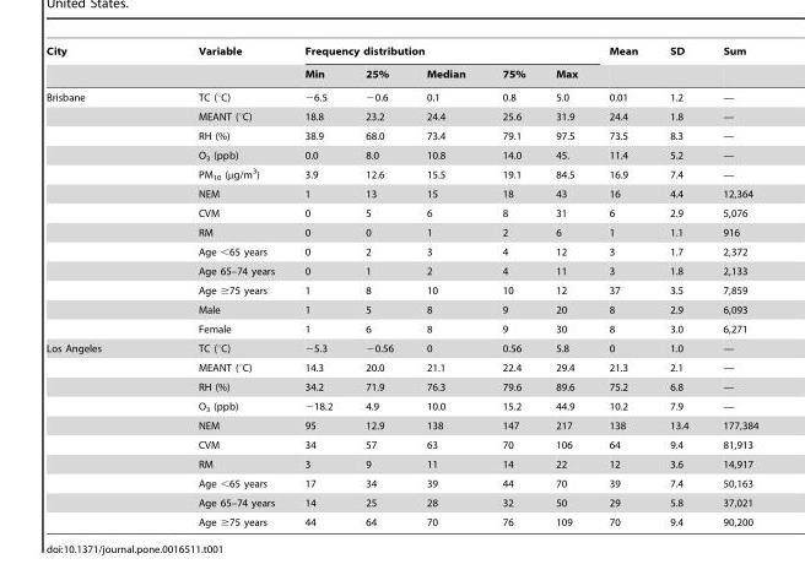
<table><thead><tr><td rowspan="2">City</td><td rowspan="2">Variable</td><td colspan="5">Frequency distribution</td><td rowspan="2">Mean</td><td rowspan="2">SD</td><td rowspan="2">Sum</td></tr><tr><td>Min</td><td>25%</td><td>Median</td><td>75%</td><td>Max</td></tr></thead><tbody><tr><td rowspan="13">Brisbane</td><td>TC (°C)</td><td>−6.5</td><td>−0.6</td><td>0.1</td><td>0.8</td><td>5.0</td><td>0.01</td><td>1.2</td><td>—</td></tr><tr><td>MEANT (°C)</td><td>18.8</td><td>23.2</td><td>24.4</td><td>25.6</td><td>31.9</td><td>24.4</td><td>1.8</td><td>—</td></tr><tr><td>RH (%)</td><td>38.9</td><td>68.0</td><td>73.4</td><td>79.1</td><td>97.5</td><td>73.5</td><td>8.3</td><td>—</td></tr><tr><td>O<sub>3</sub> (ppb)</td><td>0.0</td><td>8.0</td><td>10.8</td><td>14.0</td><td>45.</td><td>11.4</td><td>5.2</td><td>—</td></tr><tr><td>PM<sub>10</sub> (µg/m<sup>3</sup>)</td><td>3.9</td><td>12.6</td><td>15.5</td><td>19.1</td><td>84.5</td><td>16.9</td><td>7.4</td><td>—</td></tr><tr><td>NEM</td><td>1</td><td>13</td><td>15</td><td>18</td><td>43</td><td>16</td><td>4.4</td><td>12,364</td></tr><tr><td>CVM</td><td>0</td><td>5</td><td>6</td><td>8</td><td>31</td><td>6</td><td>2.9</td><td>5,076</td></tr><tr><td>RM</td><td>0</td><td>0</td><td>1</td><td>2</td><td>6</td><td>1</td><td>1.1</td><td>916</td></tr><tr><td>Age &lt;65 years</td><td>0</td><td>2</td><td>3</td><td>4</td><td>12</td><td>3</td><td>1.7</td><td>2,372</td></tr><tr><td>Age 65–74 years</td><td>0</td><td>1</td><td>2</td><td>4</td><td>11</td><td>3</td><td>1.8</td><td>2,133</td></tr><tr><td>Age ≥75 years</td><td>1</td><td>8</td><td>10</td><td>10</td><td>12</td><td>37</td><td>3.5</td><td>7,859</td></tr><tr><td>Male</td><td>1</td><td>5</td><td>8</td><td>9</td><td>20</td><td>8</td><td>2.9</td><td>6,093</td></tr><tr><td>Female</td><td>1</td><td>6</td><td>8</td><td>9</td><td>30</td><td>8</td><td>3.0</td><td>6,271</td></tr><tr><td rowspan="10">Los Angeles</td><td>TC (°C)</td><td>−5.3</td><td>−0.56</td><td>0</td><td>0.56</td><td>5.8</td><td>0</td><td>1.0</td><td>—</td></tr><tr><td>MEANT (°C)</td><td>14.3</td><td>20.0</td><td>21.1</td><td>22.4</td><td>29.4</td><td>21.3</td><td>2.1</td><td>—</td></tr><tr><td>RH (%)</td><td>34.2</td><td>71.9</td><td>76.3</td><td>79.6</td><td>89.6</td><td>75.2</td><td>6.8</td><td>—</td></tr><tr><td>O<sub>3</sub> (ppb)</td><td>−18.2</td><td>4.9</td><td>10.0</td><td>15.2</td><td>44.9</td><td>10.2</td><td>7.9</td><td>—</td></tr><tr><td>NEM</td><td>95</td><td>12.9</td><td>138</td><td>147</td><td>217</td><td>138</td><td>13.4</td><td>177,384</td></tr><tr><td>CVM</td><td>34</td><td>57</td><td>63</td><td>70</td><td>106</td><td>64</td><td>9.4</td><td>81,913</td></tr><tr><td>RM</td><td>3</td><td>9</td><td>11</td><td>14</td><td>22</td><td>12</td><td>3.6</td><td>14,917</td></tr><tr><td>Age &lt;65 years</td><td>17</td><td>34</td><td>39</td><td>44</td><td>70</td><td>39</td><td>7.4</td><td>50,163</td></tr><tr><td>Age 65–74 years</td><td>14</td><td>25</td><td>28</td><td>32</td><td>50</td><td>29</td><td>5.8</td><td>37,021</td></tr><tr><td>Age ≥75 years</td><td>44</td><td>64</td><td>70</td><td>76</td><td>109</td><td>70</td><td>9.4</td><td>90,200</td></tr></tbody></table>